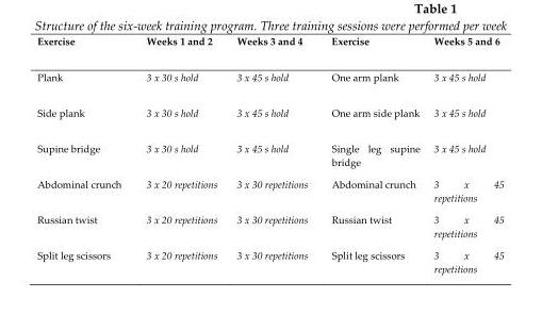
<table><thead><tr><td>Exercise</td><td>Weeks 1 and 2</td><td>Weeks 3 and 4</td><td>Exercise</td><td>Weeks 5 and 6</td></tr></thead><tbody><tr><td>Plank</td><td>3 x 30 s hold</td><td>3 x 45 s hold</td><td>One arm plank</td><td>3 x 45 s hold</td></tr><tr><td>Side plank</td><td>3 x 30 s hold</td><td>3 x 45 s hold</td><td>One arm side plank</td><td>3 x 45 s hold</td></tr><tr><td>Supine bridge</td><td>3 x 30 s hold</td><td>3 x 45 s hold</td><td>Single leg supine bridge</td><td>3 x 45 s hold</td></tr><tr><td>Abdominal crunch</td><td>3 x 20 repetitions</td><td>3 x 30 repetitions</td><td>Abdominal crunch</td><td>3 x 45 repetitions</td></tr><tr><td>Russian twist</td><td>3 x 20 repetitions</td><td>3 x 30 repetitions</td><td>Russian twist</td><td>3 x 45 repetitions</td></tr><tr><td>Split leg scissors</td><td>3 x 20 repetitions</td><td>3 x 30 repetitions</td><td>Split leg scissors</td><td>3 x 45 repetitions</td></tr></tbody></table>